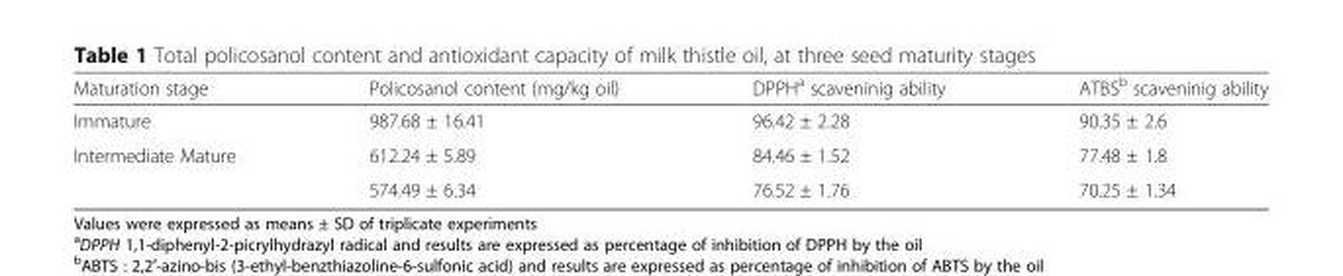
<table><thead><tr><td>Maturation stage</td><td>Policosanol content (mg/kg oil)</td><td>DPPH<sup>a</sup> scaveninig ability</td><td>ATBS<sup>b</sup> scaveninig ability</td></tr></thead><tbody><tr><td>Immature</td><td>987.68 ± 16.41</td><td>96.42 ± 2.28</td><td>90.35 ± 2.6</td></tr><tr><td rowspan="2">Intermediate Mature</td><td>612.24 ± 5.89</td><td>84.46 ± 1.52</td><td>77.48 ± 1.8</td></tr><tr><td>574.49 ± 6.34</td><td>76.52 ± 1.76</td><td>70.25 ± 1.34</td></tr></tbody></table>